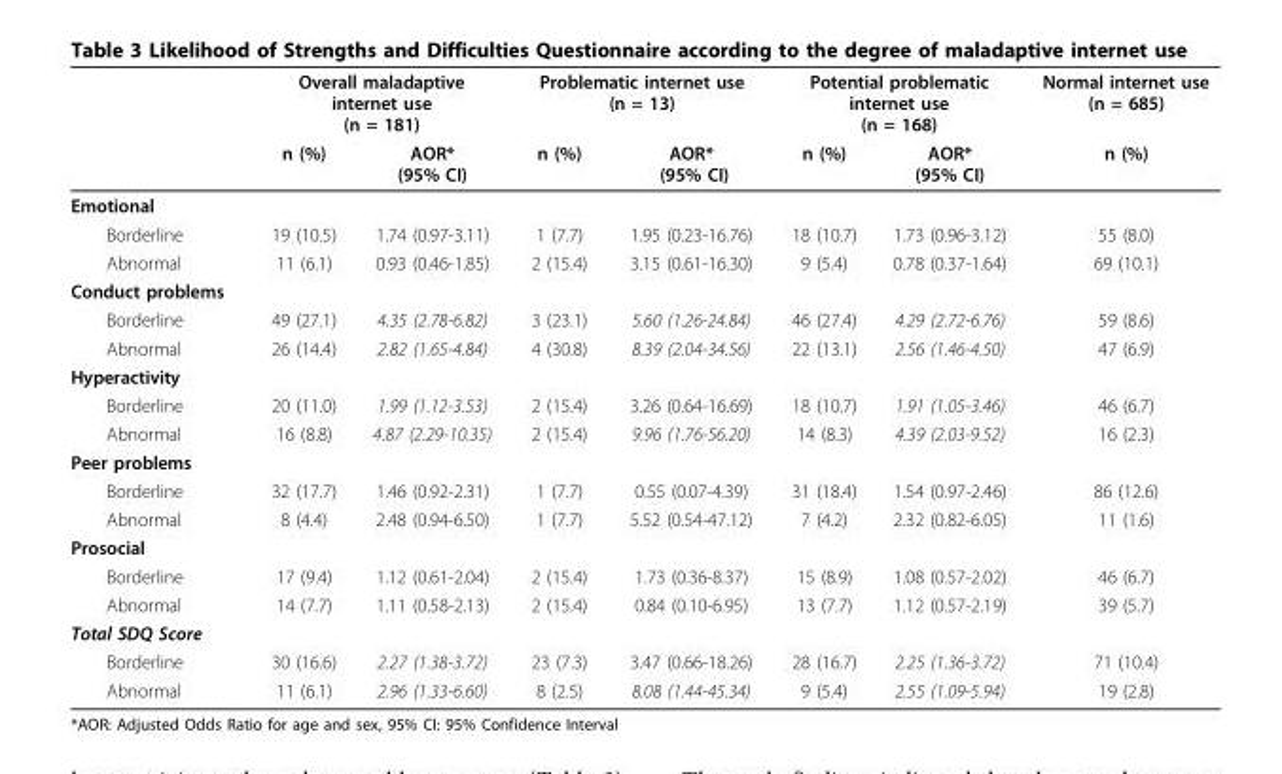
<table><thead><tr><td rowspan="2"></td><td colspan="2">Overall maladaptive internet use (n = 181)</td><td colspan="2">Problematic internet use (n = 13)</td><td colspan="2">Potential problematic internet use (n = 168)</td><td rowspan="2">Normal internet use (n = 685) n (%)</td></tr><tr><td>n (%)</td><td>AOR* (95% CI)</td><td>n (%)</td><td>AOR* (95% CI)</td><td>n (%)</td><td>AOR* (95% CI)</td></tr></thead><tbody><tr><td colspan="8">Emotional</td></tr><tr><td>Borderline</td><td>19 (10.5)</td><td>1.74 (0.97-3.11)</td><td>1 (7.7)</td><td>1.95 (0.23-16.76)</td><td>18 (10.7)</td><td>1.73 (0.96-3.12)</td><td>55 (8.0)</td></tr><tr><td>Abnormal</td><td>11 (6.1)</td><td>0.93 (0.46-1.85)</td><td>2 (15.4)</td><td>3.15 (0.61-16.30)</td><td>9 (5.4)</td><td>0.78 (0.37-1.64)</td><td>69 (10.1)</td></tr><tr><td colspan="8">Conduct problems</td></tr><tr><td>Borderline</td><td>49 (27.1)</td><td>4.35 (2.78-6.82)</td><td>3 (23.1)</td><td>5.60 (1.26-24.84)</td><td>46 (27.4)</td><td>4.29 (2.72-6.76)</td><td>59 (8.6)</td></tr><tr><td>Abnormal</td><td>26 (14.4)</td><td>2.82 (1.65-4.84)</td><td>4 (30.8)</td><td>8.39 (2.04-34.56)</td><td>22 (13.1)</td><td>2.56 (1.46-4.50)</td><td>47 (6.9)</td></tr><tr><td colspan="8">Hyperactivity</td></tr><tr><td>Borderline</td><td>20 (11.0)</td><td>1.99 (1.12-3.53)</td><td>2 (15.4)</td><td>3.26 (0.64-16.69)</td><td>18 (10.7)</td><td>1.91 (1.05-3.46)</td><td>46 (6.7)</td></tr><tr><td>Abnormal</td><td>16 (8.8)</td><td>4.87 (2.29-10.35)</td><td>2 (15.4)</td><td>9.96 (1.76-56.20)</td><td>14 (8.3)</td><td>4.39 (2.03-9.52)</td><td>16 (2.3)</td></tr><tr><td colspan="8">Peer problems</td></tr><tr><td>Borderline</td><td>32 (17.7)</td><td>1.46 (0.92-2.31)</td><td>1 (7.7)</td><td>0.55 (0.07-4.39)</td><td>31 (18.4)</td><td>1.54 (0.97-2.46)</td><td>86 (12.6)</td></tr><tr><td>Abnormal</td><td>8 (4.4)</td><td>2.48 (0.94-6.50)</td><td>1 (7.7)</td><td>5.52 (0.54-47.12)</td><td>7 (4.2)</td><td>2.32 (0.82-6.05)</td><td>11 (1.6)</td></tr><tr><td colspan="8">Prosocial</td></tr><tr><td>Borderline</td><td>17 (9.4)</td><td>1.12 (0.61-2.04)</td><td>2 (15.4)</td><td>1.73 (0.36-8.37)</td><td>15 (8.9)</td><td>1.08 (0.57-2.02)</td><td>46 (6.7)</td></tr><tr><td>Abnormal</td><td>14 (7.7)</td><td>1.11 (0.58-2.13)</td><td>2 (15.4)</td><td>0.84 (0.10-6.95)</td><td>13 (7.7)</td><td>1.12 (0.57-2.19)</td><td>39 (5.7)</td></tr><tr><td colspan="8">Total SDQ Score</td></tr><tr><td>Borderline</td><td>30 (16.6)</td><td>2.27 (1.38-3.72)</td><td>23 (7.3)</td><td>3.47 (0.66-18.26)</td><td>28 (16.7)</td><td>2.25 (1.36-3.72)</td><td>71 (10.4)</td></tr><tr><td>Abnormal</td><td>11 (6.1)</td><td>2.96 (1.33-6.60)</td><td>8 (2.5)</td><td>8.08 (1.44-45.34)</td><td>9 (5.4)</td><td>2.55 (1.09-5.94)</td><td>19 (2.8)</td></tr></tbody></table>